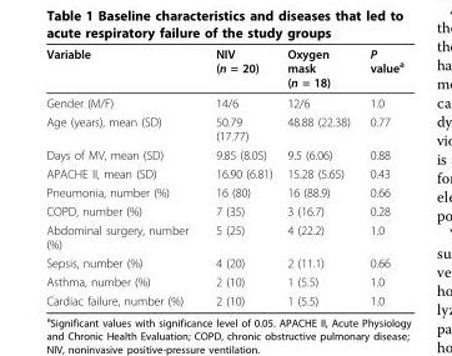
<table><thead><tr><td>Variable</td><td>NIV (n = 20)</td><td>Oxygen mask (n = 18)</td><td>P value<sup>a</sup></td></tr></thead><tbody><tr><td>Gender (M/F)</td><td>14/6</td><td>12/6</td><td>1.0</td></tr><tr><td>Age (years), mean (SD)</td><td>50.79 (17.77)</td><td>48.88 (22.38)</td><td>0.77</td></tr><tr><td>Days of MV, mean (SD)</td><td>9.85 (8.05)</td><td>9.5 (6.06)</td><td>0.88</td></tr><tr><td>APACHE II, mean (SD)</td><td>16.90 (6.81)</td><td>15.28 (5.65)</td><td>0.43</td></tr><tr><td>Pneumonia, number (%)</td><td>16 (80)</td><td>16 (88.9)</td><td>0.66</td></tr><tr><td>COPD, number (%)</td><td>7 (35)</td><td>3 (16.7)</td><td>0.28</td></tr><tr><td>Abdominal surgery, number (%)</td><td>5 (25)</td><td>4 (22.2)</td><td>1.0</td></tr><tr><td>Sepsis, number (%)</td><td>4 (20)</td><td>2 (11.1)</td><td>0.66</td></tr><tr><td>Asthma, number (%)</td><td>2 (10)</td><td>1 (5.5)</td><td>1.0</td></tr><tr><td>Cardiac failure, number (%)</td><td>2 (10)</td><td>1 (5.5)</td><td>1.0</td></tr></tbody></table>